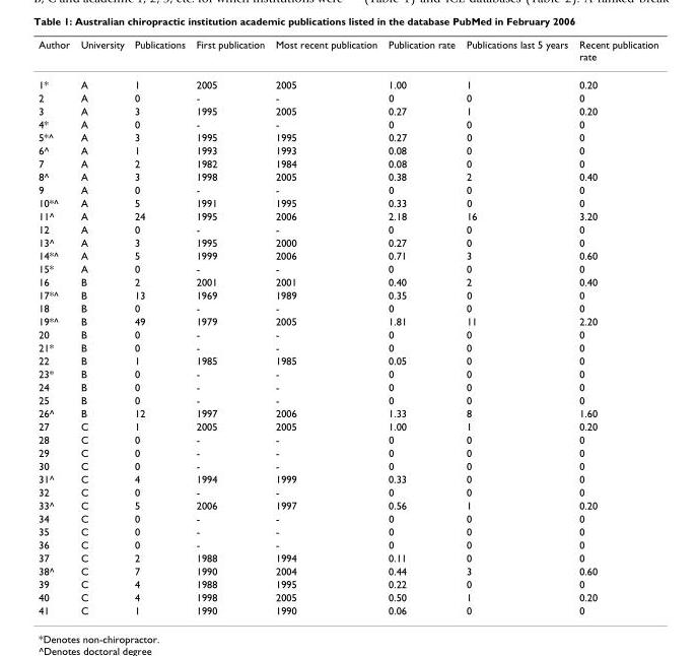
<table><thead><tr><td>Author</td><td>University</td><td>Publications</td><td>First publication</td><td>Most recent publication</td><td>Publication rate</td><td>Publications last 5 years</td><td>Recent publication rate</td></tr></thead><tbody><tr><td>1*</td><td>A</td><td>1</td><td>2005</td><td>2005</td><td>1.00</td><td>1</td><td>0.20</td></tr><tr><td>2</td><td>A</td><td>0</td><td>-</td><td>-</td><td>0</td><td>0</td><td>0</td></tr><tr><td>3</td><td>A</td><td>3</td><td>1995</td><td>2005</td><td>0.27</td><td>1</td><td>0.20</td></tr><tr><td>4*</td><td>A</td><td>0</td><td>-</td><td>-</td><td>0</td><td>0</td><td>0</td></tr><tr><td>5*^</td><td>A</td><td>3</td><td>1995</td><td>1995</td><td>0.27</td><td>0</td><td>0</td></tr><tr><td>6^</td><td>A</td><td>1</td><td>1993</td><td>1993</td><td>0.08</td><td>0</td><td>0</td></tr><tr><td>7</td><td>A</td><td>2</td><td>1982</td><td>1984</td><td>0.08</td><td>0</td><td>0</td></tr><tr><td>8^</td><td>A</td><td>3</td><td>1998</td><td>2005</td><td>0.38</td><td>2</td><td>0.40</td></tr><tr><td>9</td><td>A</td><td>0</td><td>-</td><td>-</td><td>0</td><td>0</td><td>0</td></tr><tr><td>10*^</td><td>A</td><td>5</td><td>1991</td><td>1995</td><td>0.33</td><td>0</td><td>0</td></tr><tr><td>11^</td><td>A</td><td>24</td><td>1995</td><td>2006</td><td>2.18</td><td>16</td><td>3.20</td></tr><tr><td>12</td><td>A</td><td>0</td><td>-</td><td>-</td><td>0</td><td>0</td><td>0</td></tr><tr><td>13^</td><td>A</td><td>3</td><td>1995</td><td>2000</td><td>0.27</td><td>0</td><td>0</td></tr><tr><td>14*^</td><td>A</td><td>5</td><td>1999</td><td>2006</td><td>0.71</td><td>3</td><td>0.60</td></tr><tr><td>15*</td><td>A</td><td>0</td><td>-</td><td>-</td><td>0</td><td>0</td><td>0</td></tr><tr><td>16</td><td>B</td><td>2</td><td>2001</td><td>2001</td><td>0.40</td><td>2</td><td>0.40</td></tr><tr><td>17*^</td><td>B</td><td>13</td><td>1969</td><td>1989</td><td>0.35</td><td>0</td><td>0</td></tr><tr><td>18</td><td>B</td><td>0</td><td>-</td><td>-</td><td>0</td><td>0</td><td>0</td></tr><tr><td>19*^</td><td>B</td><td>49</td><td>1979</td><td>2005</td><td>1.81</td><td>11</td><td>2.20</td></tr><tr><td>20</td><td>B</td><td>0</td><td>-</td><td>-</td><td>0</td><td>0</td><td>0</td></tr><tr><td>21*</td><td>B</td><td>0</td><td>-</td><td>-</td><td>0</td><td>0</td><td>0</td></tr><tr><td>22</td><td>B</td><td>1</td><td>1985</td><td>1985</td><td>0.05</td><td>0</td><td>0</td></tr><tr><td>23*</td><td>B</td><td>0</td><td>-</td><td>-</td><td>0</td><td>0</td><td>0</td></tr><tr><td>24</td><td>B</td><td>0</td><td>-</td><td>-</td><td>0</td><td>0</td><td>0</td></tr><tr><td>25</td><td>B</td><td>0</td><td>-</td><td>-</td><td>0</td><td>0</td><td>0</td></tr><tr><td>26^</td><td>B</td><td>12</td><td>1997</td><td>2006</td><td>1.33</td><td>8</td><td>1.60</td></tr><tr><td>27</td><td>C</td><td>1</td><td>2005</td><td>2005</td><td>1.00</td><td>1</td><td>0.20</td></tr><tr><td>28</td><td>C</td><td>0</td><td>-</td><td>-</td><td>0</td><td>0</td><td>0</td></tr><tr><td>29</td><td>C</td><td>0</td><td>-</td><td>-</td><td>0</td><td>0</td><td>0</td></tr><tr><td>30</td><td>C</td><td>0</td><td>-</td><td>-</td><td>0</td><td>0</td><td>0</td></tr><tr><td>31^</td><td>C</td><td>4</td><td>1994</td><td>1999</td><td>0.33</td><td>0</td><td>0</td></tr><tr><td>32</td><td>C</td><td>0</td><td>-</td><td>-</td><td>0</td><td>0</td><td>0</td></tr><tr><td>33^</td><td>C</td><td>5</td><td>2006</td><td>1997</td><td>0.56</td><td>1</td><td>0.20</td></tr><tr><td>34</td><td>C</td><td>0</td><td>-</td><td>-</td><td>0</td><td>0</td><td>0</td></tr><tr><td>35</td><td>C</td><td>0</td><td>-</td><td>-</td><td>0</td><td>0</td><td>0</td></tr><tr><td>36</td><td>C</td><td>0</td><td>-</td><td>-</td><td>0</td><td>0</td><td>0</td></tr><tr><td>37</td><td>C</td><td>2</td><td>1988</td><td>1994</td><td>0.11</td><td>0</td><td>0</td></tr><tr><td>38^</td><td>C</td><td>7</td><td>1990</td><td>2004</td><td>0.44</td><td>3</td><td>0.60</td></tr><tr><td>39</td><td>C</td><td>4</td><td>1988</td><td>1995</td><td>0.22</td><td>0</td><td>0</td></tr><tr><td>40</td><td>C</td><td>4</td><td>1998</td><td>2005</td><td>0.50</td><td>1</td><td>0.20</td></tr><tr><td>41</td><td>C</td><td>1</td><td>1990</td><td>1990</td><td>0.06</td><td>0</td><td>0</td></tr></tbody></table>